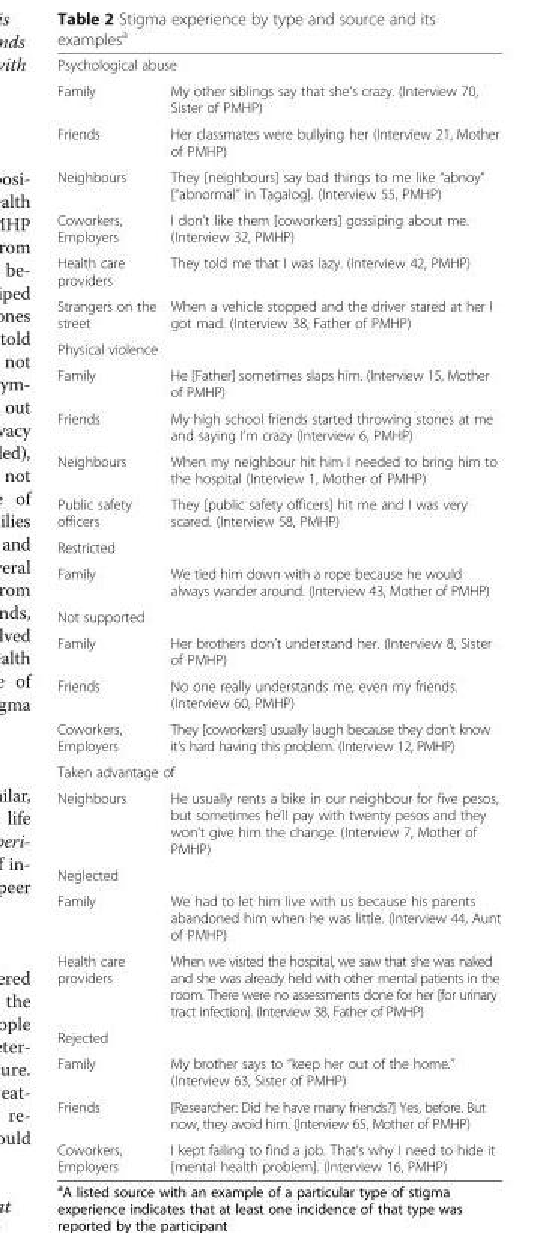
<table><tbody><tr><td colspan="2">Psychological abuse</td></tr><tr><td>Family</td><td>My other siblings say that she’s crazy. (Interview 70, Sister of PMHP)</td></tr><tr><td>Friends</td><td>Her classmates were bullying her (Interview 21, Mother of PMHP)</td></tr><tr><td>Neighbours</td><td>They [neighbours] say bad things to me like “abnoy” [“abnormal” in Tagalog]. (Interview 55, PMHP)</td></tr><tr><td>Coworkers, Employers</td><td>I don’t like them [coworkers] gossiping about me. (Interview 32, PMHP)</td></tr><tr><td>Health care providers</td><td>They told me that I was lazy. (Interview 42, PMHP)</td></tr><tr><td>Strangers on the street</td><td>When a vehicle stopped and the driver stared at her I got mad. (Interview 38, Father of PMHP)</td></tr><tr><td colspan="2">Physical violence</td></tr><tr><td>Family</td><td>He [Father] sometimes slaps him. (Interview 15, Mother of PMHP)</td></tr><tr><td>Friends</td><td>My high school friends started throwing stones at me and saying I’m crazy (Interview 6, PMHP)</td></tr><tr><td>Neighbours</td><td>When my neighbour hit him I needed to bring him to the hospital (Interview 1, Mother of PMHP)</td></tr><tr><td>Public safety officers</td><td>They [public safety officers] hit me and I was very scared. (Interview 58, PMHP)</td></tr><tr><td colspan="2">Restricted</td></tr><tr><td>Family</td><td>We tied him down with a rope because he would always wander around. (Interview 43, Mother of PMHP)</td></tr><tr><td colspan="2">Not supported</td></tr><tr><td>Family</td><td>Her brothers don’t understand her. (Interview 8, Sister of PMHP)</td></tr><tr><td>Friends</td><td>No one really understands me, even my friends. (Interview 60, PMHP)</td></tr><tr><td>Coworkers, Employers</td><td>They [coworkers] usually laugh because they don’t know it’s hard having this problem. (Interview 12, PMHP)</td></tr><tr><td colspan="2">Taken advantage of</td></tr><tr><td>Neighbours</td><td>He usually rents a bike in our neighbour for five pesos, but sometimes he’ll pay with twenty pesos and they won’t give him the change. (Interview 7, Mother of PMHP)</td></tr><tr><td colspan="2">Neglected</td></tr><tr><td>Family</td><td>We had to let him live with us because his parents abandoned him when he was little. (Interview 44, Aunt of PMHP)</td></tr><tr><td>Health care providers</td><td>When we visited the hospital, we saw that she was naked and she was already held with other mental patients in the room. There were no assessments done for her [for urinary tract infection]. (Interview 38, Father of PMHP)</td></tr><tr><td colspan="2">Rejected</td></tr><tr><td>Family</td><td>My brother says to “keep her out of the home.” (Interview 63, Sister of PMHP)</td></tr><tr><td>Friends</td><td>[Researcher: Did he have many friends?] Yes, before. But now, they avoid him. (Interview 65, Mother of PMHP)</td></tr><tr><td>Coworkers, Employers</td><td>I kept failing to find a job. That’s why I need to hide it [mental health problem]. (Interview 16, PMHP)</td></tr></tbody></table>